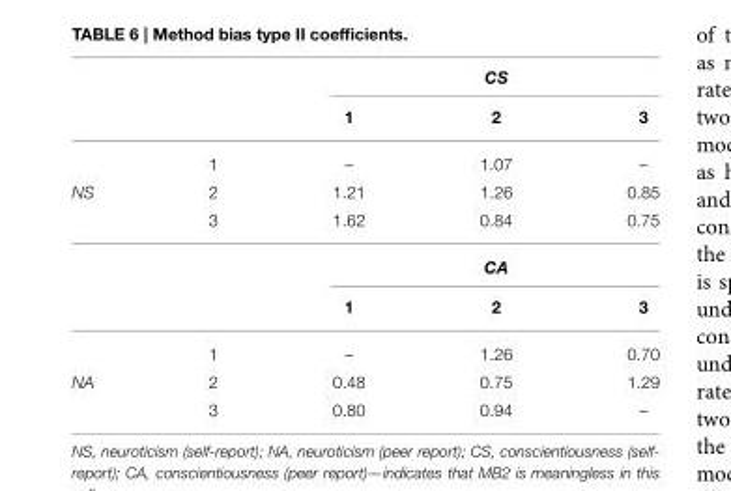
<table><thead><tr><td rowspan="2"></td><td rowspan="2"></td><td rowspan="2">1</td><td rowspan="2">CS 2</td><td rowspan="2">3</td></tr><tr></tr></thead><tbody><tr><td></td><td>1</td><td>–</td><td>1.07</td><td>–</td></tr><tr><td rowspan="5">NS</td><td>2</td><td>1.21</td><td>1.26</td><td>0.85</td></tr><tr><td>3</td><td>1.62</td><td>0.84</td><td>0.75</td></tr><tr><td></td><td></td><td>CA</td><td></td></tr><tr><td></td><td>1</td><td>2</td><td>3</td></tr><tr><td>1</td><td>–</td><td>1.26</td><td>0.70</td></tr><tr><td rowspan="2">NA</td><td>2</td><td>0.48</td><td>0.75</td><td>1.29</td></tr><tr><td>3</td><td>0.80</td><td>0.94</td><td>–</td></tr></tbody></table>